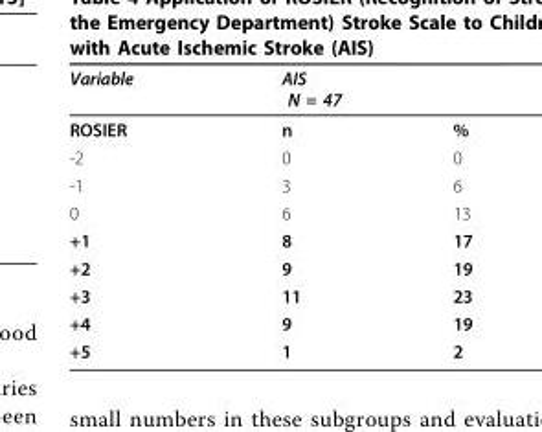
<table><thead><tr><td rowspan="2">Variable ROSIER</td><td colspan="2">AIS N = 47</td></tr><tr><td>n</td><td>%</td></tr></thead><tbody><tr><td>-2</td><td>0</td><td>0</td></tr><tr><td>-1</td><td>3</td><td>6</td></tr><tr><td>0</td><td>6</td><td>13</td></tr><tr><td>+1</td><td>8</td><td>17</td></tr><tr><td>+2</td><td>9</td><td>19</td></tr><tr><td>+3</td><td>11</td><td>23</td></tr><tr><td>+4</td><td>9</td><td>19</td></tr><tr><td>+5</td><td>1</td><td>2</td></tr></tbody></table>